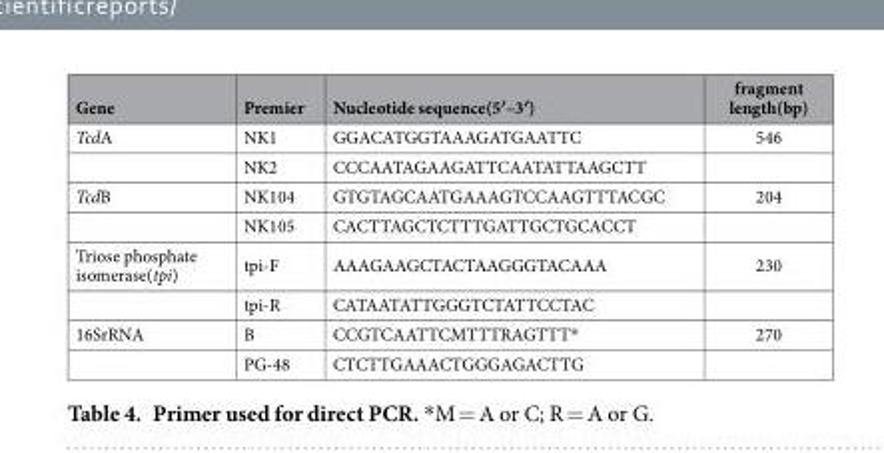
<table><thead><tr><td>Gene</td><td>Premier</td><td>Nucleotide sequence(5′–3′)</td><td>fragment length(bp)</td></tr></thead><tbody><tr><td rowspan="2">TcdA</td><td>NK1</td><td>GGACATGGTAAAGATGAATTC</td><td>546</td></tr><tr><td>NK2</td><td>CCCAATAGAAGATTCAATATTAAGCTT</td><td></td></tr><tr><td rowspan="2">TcdB</td><td>NK104</td><td>GTGTAGCAATGAAAGTCCAAGTTTACGC</td><td>204</td></tr><tr><td>NK105</td><td>CACTTAGCTCTTTGATTGCTGCACCT</td><td></td></tr><tr><td rowspan="2">Triose phosphate isomerase(tpi)</td><td>tpi-F</td><td>AAAGAAGCTACTAAGGGTACAAA</td><td>230</td></tr><tr><td>tpi-R</td><td>CATAATATTGGGTCTATTCCTAC</td><td></td></tr><tr><td rowspan="2">16SrRNA</td><td>B</td><td>CCGTCAATTCMTTTRAGTTT*</td><td>270</td></tr><tr><td>PG-48</td><td>CTCTTGAAACTGGGAGACTTG</td><td></td></tr></tbody></table>